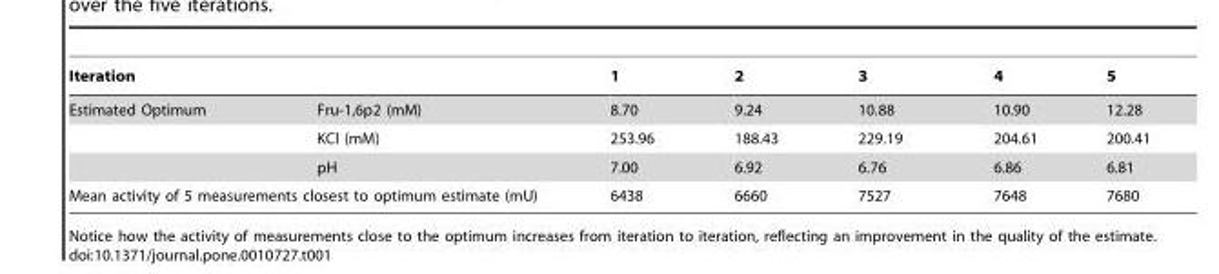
<table><thead><tr><td colspan="2">Iteration</td><td rowspan="2">1 8.70</td><td rowspan="2">2 9.24</td><td rowspan="2">3 10.88</td><td rowspan="2">4 10.90</td><td rowspan="2">5 12.28</td></tr><tr><td>Estimated Optimum</td><td>Fru-1,6p2 (mM)</td></tr></thead><tbody><tr><td></td><td>KCl (mM)</td><td>253.96</td><td>188.43</td><td>229.19</td><td>204.61</td><td>200.41</td></tr><tr><td></td><td>pH</td><td>7.00</td><td>6.92</td><td>6.76</td><td>6.86</td><td>6.81</td></tr><tr><td colspan="2">Mean activity of 5 measurements closest to optimum estimate (mU)</td><td>6438</td><td>6660</td><td>7527</td><td>7648</td><td>7680</td></tr></tbody></table>